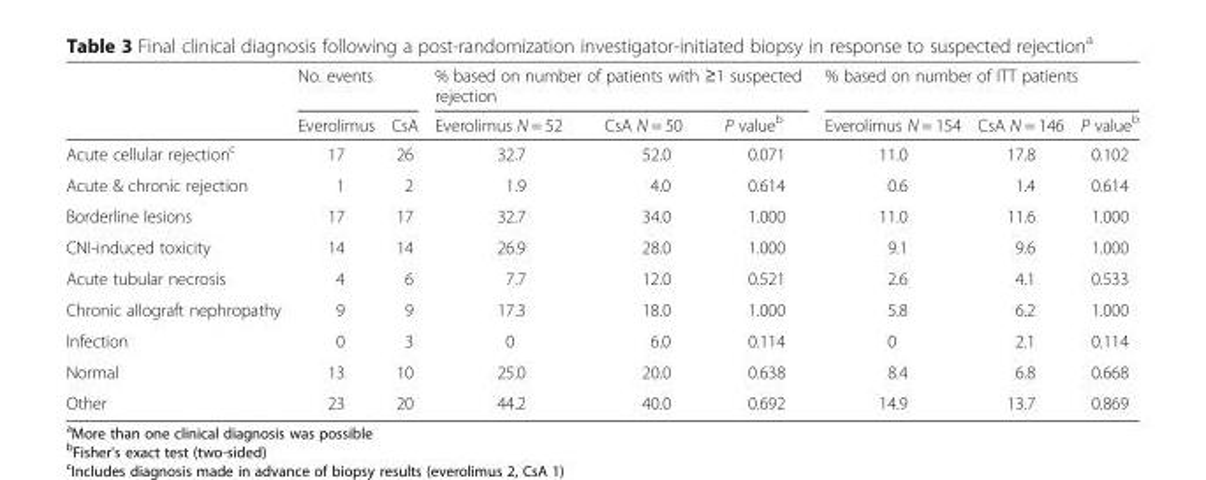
<table><thead><tr><td rowspan="2"></td><td colspan="2">No. events</td><td colspan="3">% based on number of patients with ≥1 suspected rejection</td><td colspan="3">% based on number of ITT patients</td></tr><tr><td>Everolimus</td><td>CsA</td><td>Everolimus N = 52</td><td>CsA N = 50</td><td>P value<sup>b</sup></td><td>Everolimus N = 154</td><td>CsA N = 146</td><td>P value<sup>b</sup></td></tr></thead><tbody><tr><td>Acute cellular rejection<sup>c</sup></td><td>17</td><td>26</td><td>32.7</td><td>52.0</td><td>0.071</td><td>11.0</td><td>17.8</td><td>0.102</td></tr><tr><td>Acute &amp; chronic rejection</td><td>1</td><td>2</td><td>1.9</td><td>4.0</td><td>0.614</td><td>0.6</td><td>1.4</td><td>0.614</td></tr><tr><td>Borderline lesions</td><td>17</td><td>17</td><td>32.7</td><td>34.0</td><td>1.000</td><td>11.0</td><td>11.6</td><td>1.000</td></tr><tr><td>CNI-induced toxicity</td><td>14</td><td>14</td><td>26.9</td><td>28.0</td><td>1.000</td><td>9.1</td><td>9.6</td><td>1.000</td></tr><tr><td>Acute tubular necrosis</td><td>4</td><td>6</td><td>7.7</td><td>12.0</td><td>0.521</td><td>2.6</td><td>4.1</td><td>0.533</td></tr><tr><td>Chronic allograft nephropathy</td><td>9</td><td>9</td><td>17.3</td><td>18.0</td><td>1.000</td><td>5.8</td><td>6.2</td><td>1.000</td></tr><tr><td>Infection</td><td>0</td><td>3</td><td>0</td><td>6.0</td><td>0.114</td><td>0</td><td>2.1</td><td>0.114</td></tr><tr><td>Normal</td><td>13</td><td>10</td><td>25.0</td><td>20.0</td><td>0.638</td><td>8.4</td><td>6.8</td><td>0.668</td></tr><tr><td>Other</td><td>23</td><td>20</td><td>44.2</td><td>40.0</td><td>0.692</td><td>14.9</td><td>13.7</td><td>0.869</td></tr></tbody></table>